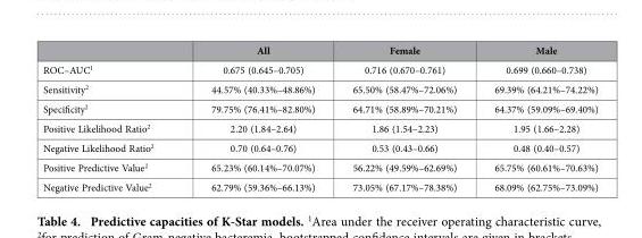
<table><thead><tr><td></td><td>All</td><td>Female</td><td>Male</td></tr></thead><tbody><tr><td>ROC–AUC<sup>1</sup></td><td>0.675 (0.645–0.705)</td><td>0.716 (0.670–0.761)</td><td>0.699 (0.660–0.738)</td></tr><tr><td>Sensitivity<sup>2</sup></td><td>44.57% (40.33%–48.86%)</td><td>65.50% (58.47%–72.06%)</td><td>69.39% (64.21%–74.22%)</td></tr><tr><td>Specificity<sup>2</sup></td><td>79.75% (76.41%–82.80%)</td><td>64.71% (58.89%–70.21%)</td><td>64.37% (59.09%–69.40%)</td></tr><tr><td>Positive Likelihood Ratio<sup>2</sup></td><td>2.20 (1.84–2.64)</td><td>1.86 (1.54–2.23)</td><td>1.95 (1.66–2.28)</td></tr><tr><td>Negative Likelihood Ratio<sup>2</sup></td><td>0.70 (0.64–0.76)</td><td>0.53 (0.43–0.66)</td><td>0.48 (0.40–0.57)</td></tr><tr><td>Positive Predictive Value<sup>2</sup></td><td>65.23% (60.14%–70.07%)</td><td>56.22% (49.59%–62.69%)</td><td>65.75% (60.61%–70.63%)</td></tr><tr><td>Negative Predictive Value<sup>2</sup></td><td>62.79% (59.36%–66.13%)</td><td>73.05% (67.17%–78.38%)</td><td>68.09% (62.75%–73.09%)</td></tr></tbody></table>